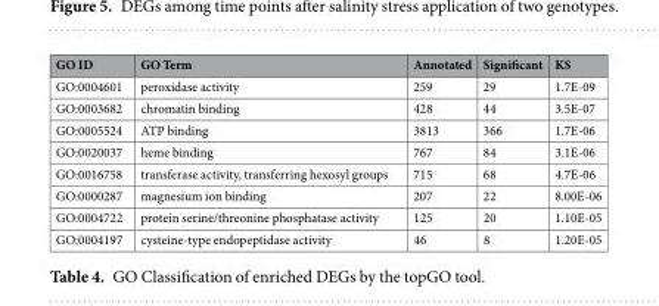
<table><thead><tr><td>GO ID</td><td>GO Term</td><td>Annotated</td><td>Significant</td><td>KS</td></tr></thead><tbody><tr><td>GO:0004601</td><td>peroxidase activity</td><td>259</td><td>29</td><td>1.7E-09</td></tr><tr><td>GO:0003682</td><td>chromatin binding</td><td>428</td><td>44</td><td>3.5E-07</td></tr><tr><td>GO:0005524</td><td>ATP binding</td><td>3813</td><td>366</td><td>1.7E-06</td></tr><tr><td>GO:0020037</td><td>heme binding</td><td>767</td><td>84</td><td>3.1E-06</td></tr><tr><td>GO:0016758</td><td>transferase activity, transferring hexosyl groups</td><td>715</td><td>68</td><td>4.7E-06</td></tr><tr><td>GO:0000287</td><td>magnesium ion binding</td><td>207</td><td>22</td><td>8.00E-06</td></tr><tr><td>GO:0004722</td><td>protein serine/threonine phosphatase activity</td><td>125</td><td>20</td><td>1.10E-05</td></tr><tr><td>GO:0004197</td><td>cysteine-type endopeptidase activity</td><td>46</td><td>8</td><td>1.20E-05</td></tr></tbody></table>